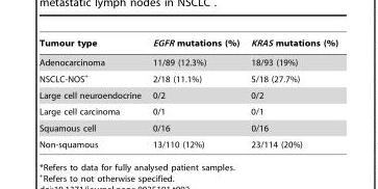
<table><thead><tr><td>Tumour type</td><td>EGFR mutations (%)</td><td>KRAS mutations (%)</td></tr></thead><tbody><tr><td>Adenocarcinoma</td><td>11/89 (12.3%)</td><td>18/93 (19%)</td></tr><tr><td>NSCLC-NOS+</td><td>2/18 (11.1%)</td><td>5/18 (27.7%)</td></tr><tr><td>Large cell neuroendocrine</td><td>0/2</td><td>0/2</td></tr><tr><td>Large cell carcinoma</td><td>0/1</td><td>0/1</td></tr><tr><td>Squamous cell</td><td>0/16</td><td>0/16</td></tr><tr><td>Non-squamous</td><td>13/110 (12%)</td><td>23/114 (20%)</td></tr></tbody></table>